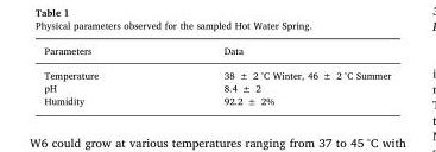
<table><thead><tr><td>Parameters</td><td>Data</td></tr></thead><tbody><tr><td>Temperature</td><td>38 ± 2 °C Winter, 46 ± 2 °C Summer</td></tr><tr><td>pH</td><td>8.4 ± 2</td></tr><tr><td>Humidity</td><td>92.2 ± 2%</td></tr></tbody></table>